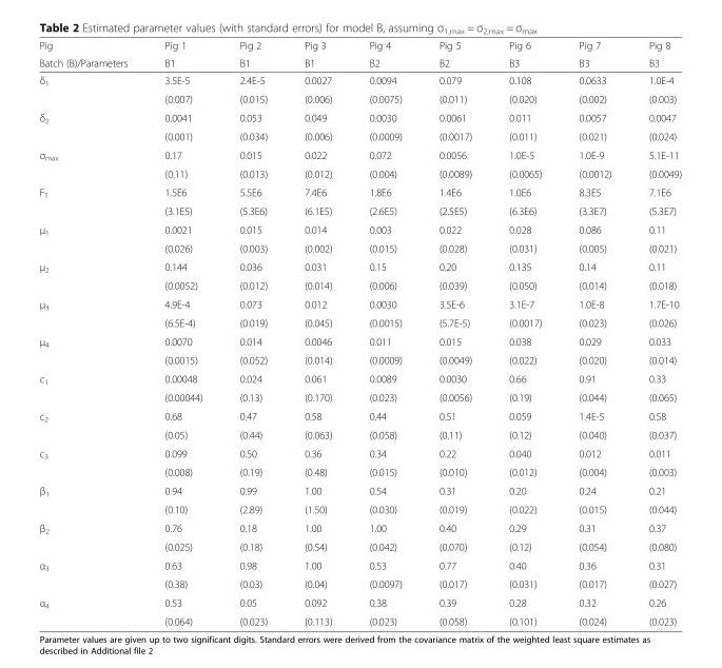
<table><thead><tr><td rowspan="2">Pig Batch (B)/Parameters</td><td rowspan="2">Pig 1 B1</td><td rowspan="2">Pig 2 B1</td><td rowspan="2">Pig 3 B1</td><td rowspan="2">Pig 4 B2</td><td rowspan="2">Pig 5 B2</td><td rowspan="2">Pig 6 B3</td><td rowspan="2">Pig 7 B3</td><td rowspan="2">Pig 8 B3</td></tr><tr></tr></thead><tbody><tr><td rowspan="2">δ<sub>1</sub></td><td>3.5E-5</td><td>2.4E-5</td><td>0.0027</td><td>0.0094</td><td>0.079</td><td>0.108</td><td>0.0633</td><td>1.0E-4</td></tr><tr><td>(0.007)</td><td>(0.015)</td><td>(0.006)</td><td>(0.0075)</td><td>(0.011)</td><td>(0.020)</td><td>(0.002)</td><td>(0.003)</td></tr><tr><td rowspan="2">δ<sub>2</sub></td><td>0.0041</td><td>0.053</td><td>0.049</td><td>0.0030</td><td>0.0061</td><td>0.011</td><td>0.0057</td><td>0.0047</td></tr><tr><td>(0.001)</td><td>(0.034)</td><td>(0.006)</td><td>(0.0009)</td><td>(0.0017)</td><td>(0.011)</td><td>(0.021)</td><td>(0.024)</td></tr><tr><td rowspan="2">σ<sub>max</sub></td><td>0.17</td><td>0.015</td><td>0.022</td><td>0.072</td><td>0.0056</td><td>1.0E-5</td><td>1.0E-9</td><td>5.1E-11</td></tr><tr><td>(0.11)</td><td>(0.013)</td><td>(0.012)</td><td>(0.004)</td><td>(0.0089)</td><td>(0.0065)</td><td>(0.0012)</td><td>(0.0049)</td></tr><tr><td rowspan="2">F<sub>T</sub></td><td>1.5E6</td><td>5.5E6</td><td>7.4E6</td><td>1.8E6</td><td>1.4E6</td><td>1.0E6</td><td>8.3E5</td><td>7.1E6</td></tr><tr><td>(3.1E5)</td><td>(5.3E6)</td><td>(6.1E5)</td><td>(2.6E5)</td><td>(2.5E5)</td><td>(6.3E6)</td><td>(3.3E7)</td><td>(5.3E7)</td></tr><tr><td rowspan="2">μ<sub>1</sub></td><td>0.0021</td><td>0.015</td><td>0.014</td><td>0.003</td><td>0.022</td><td>0.028</td><td>0.086</td><td>0.11</td></tr><tr><td>(0.026)</td><td>(0.003)</td><td>(0.002)</td><td>(0.015)</td><td>(0.028)</td><td>(0.031)</td><td>(0.005)</td><td>(0.021)</td></tr><tr><td rowspan="2">μ<sub>2</sub></td><td>0.144</td><td>0.036</td><td>0.031</td><td>0.15</td><td>0.20</td><td>0.135</td><td>0.14</td><td>0.11</td></tr><tr><td>(0.0052)</td><td>(0.012)</td><td>(0.014)</td><td>(0.006)</td><td>(0.039)</td><td>(0.050)</td><td>(0.014)</td><td>(0.018)</td></tr><tr><td rowspan="2">μ<sub>3</sub></td><td>4.9E-4</td><td>0.073</td><td>0.012</td><td>0.0030</td><td>3.5E-6</td><td>3.1E-7</td><td>1.0E-8</td><td>1.7E-10</td></tr><tr><td>(6.5E-4)</td><td>(0.019)</td><td>(0.045)</td><td>(0.0015)</td><td>(5.7E-5)</td><td>(0.0017)</td><td>(0.023)</td><td>(0.026)</td></tr><tr><td rowspan="2">μ<sub>4</sub></td><td>0.0070</td><td>0.014</td><td>0.0046</td><td>0.011</td><td>0.015</td><td>0.038</td><td>0.029</td><td>0.033</td></tr><tr><td>(0.0015)</td><td>(0.052)</td><td>(0.014)</td><td>(0.0009)</td><td>(0.0049)</td><td>(0.022)</td><td>(0.020)</td><td>(0.014)</td></tr><tr><td rowspan="2">c<sub>1</sub></td><td>0.00048</td><td>0.024</td><td>0.061</td><td>0.0089</td><td>0.0030</td><td>0.66</td><td>0.91</td><td>0.33</td></tr><tr><td>(0.00044)</td><td>(0.13)</td><td>(0.170)</td><td>(0.023)</td><td>(0.0056)</td><td>(0.19)</td><td>(0.044)</td><td>(0.065)</td></tr><tr><td rowspan="2">c<sub>2</sub></td><td>0.68</td><td>0.47</td><td>0.58</td><td>0.44</td><td>0.51</td><td>0.059</td><td>1.4E-5</td><td>0.58</td></tr><tr><td>(0.05)</td><td>(0.44)</td><td>(0.063)</td><td>(0.058)</td><td>(0.11)</td><td>(0.12)</td><td>(0.040)</td><td>(0.037)</td></tr><tr><td rowspan="2">c<sub>3</sub></td><td>0.099</td><td>0.50</td><td>0.36</td><td>0.34</td><td>0.22</td><td>0.040</td><td>0.012</td><td>0.011</td></tr><tr><td>(0.008)</td><td>(0.19)</td><td>(0.48)</td><td>(0.015)</td><td>(0.010)</td><td>(0.012)</td><td>(0.004)</td><td>(0.003)</td></tr><tr><td rowspan="2">β<sub>1</sub></td><td>0.94</td><td>0.99</td><td>1.00</td><td>0.54</td><td>0.31</td><td>0.20</td><td>0.24</td><td>0.21</td></tr><tr><td>(0.10)</td><td>(2.89)</td><td>(1.50)</td><td>(0.030)</td><td>(0.019)</td><td>(0.022)</td><td>(0.015)</td><td>(0.044)</td></tr><tr><td rowspan="2">β<sub>2</sub></td><td>0.76</td><td>0.18</td><td>1.00</td><td>1.00</td><td>0.40</td><td>0.29</td><td>0.31</td><td>0.37</td></tr><tr><td>(0.025)</td><td>(0.18)</td><td>(0.54)</td><td>(0.042)</td><td>(0.070)</td><td>(0.12)</td><td>(0.054)</td><td>(0.080)</td></tr><tr><td rowspan="2">α<sub>3</sub></td><td>0.63</td><td>0.98</td><td>1.00</td><td>0.53</td><td>0.77</td><td>0.40</td><td>0.36</td><td>0.31</td></tr><tr><td>(0.38)</td><td>(0.03)</td><td>(0.04)</td><td>(0.0097)</td><td>(0.017)</td><td>(0.031)</td><td>(0.017)</td><td>(0.027)</td></tr><tr><td rowspan="2">α<sub>4</sub></td><td>0.53</td><td>0.05</td><td>0.092</td><td>0.38</td><td>0.39</td><td>0.28</td><td>0.32</td><td>0.26</td></tr><tr><td>(0.064)</td><td>(0.023)</td><td>(0.113)</td><td>(0.023)</td><td>(0.058)</td><td>(0.101)</td><td>(0.024)</td><td>(0.023)</td></tr></tbody></table>